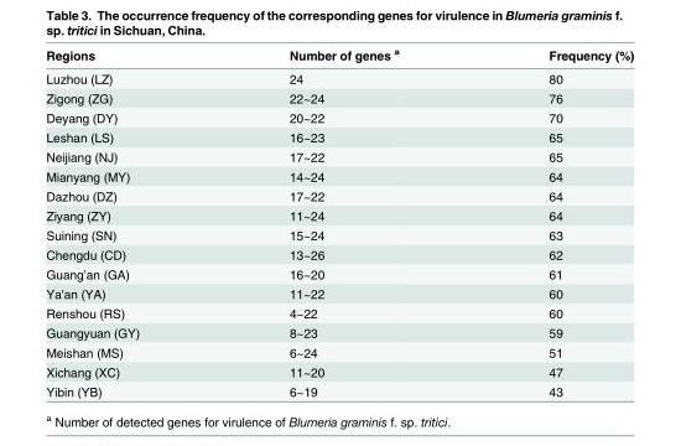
<table><thead><tr><td>Regions</td><td>Number of genes <sup>a</sup></td><td>Frequency (%)</td></tr></thead><tbody><tr><td>Luzhou (LZ)</td><td>24</td><td>80</td></tr><tr><td>Zigong (ZG)</td><td>22~24</td><td>76</td></tr><tr><td>Deyang (DY)</td><td>20~22</td><td>70</td></tr><tr><td>Leshan (LS)</td><td>16~23</td><td>65</td></tr><tr><td>Neijiang (NJ)</td><td>17~22</td><td>65</td></tr><tr><td>Mianyang (MY)</td><td>14~24</td><td>64</td></tr><tr><td>Dazhou (DZ)</td><td>17~22</td><td>64</td></tr><tr><td>Ziyang (ZY)</td><td>11~24</td><td>64</td></tr><tr><td>Suining (SN)</td><td>15~24</td><td>63</td></tr><tr><td>Chengdu (CD)</td><td>13~26</td><td>62</td></tr><tr><td>Guang’an (GA)</td><td>16~20</td><td>61</td></tr><tr><td>Ya&#x27;an (YA)</td><td>11~22</td><td>60</td></tr><tr><td>Renshou (RS)</td><td>4~22</td><td>60</td></tr><tr><td>Guangyuan (GY)</td><td>8~23</td><td>59</td></tr><tr><td>Meishan (MS)</td><td>6~24</td><td>51</td></tr><tr><td>Xichang (XC)</td><td>11~20</td><td>47</td></tr><tr><td>Yibin (YB)</td><td>6~19</td><td>43</td></tr></tbody></table>